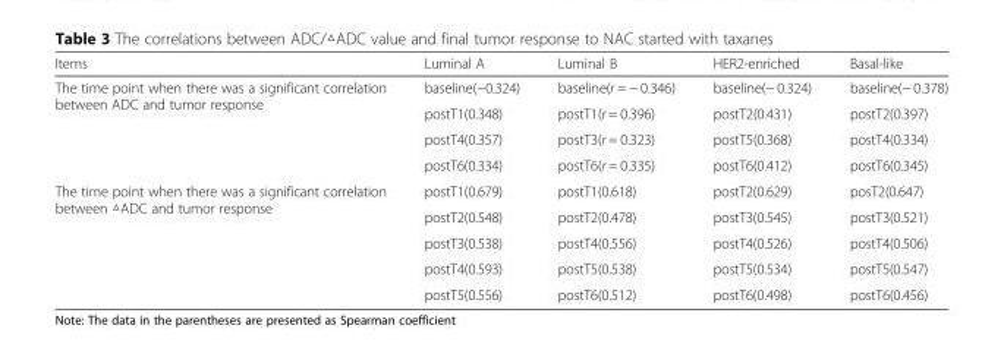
<table><thead><tr><td>Items</td><td>Luminal A</td><td>Luminal B</td><td>HER2-enriched</td><td>Basal-like</td></tr></thead><tbody><tr><td rowspan="4">The time point when there was a significant correlation between ADC and tumor response</td><td>baseline(−0.324)</td><td>baseline(r = − 0.346)</td><td>baseline(− 0.324)</td><td>baseline(− 0.378)</td></tr><tr><td>postT1(0.348)</td><td>postT1(r = 0.396)</td><td>postT2(0.431)</td><td>postT2(0.397)</td></tr><tr><td>postT4(0.357)</td><td>postT3(r = 0.323)</td><td>postT5(0.368)</td><td>postT4(0.334)</td></tr><tr><td>postT6(0.334)</td><td>postT6(r = 0.335)</td><td>postT6(0.412)</td><td>postT6(0.345)</td></tr><tr><td rowspan="5">The time point when there was a significant correlation between △ADC and tumor response</td><td>postT1(0.679)</td><td>postT1(0.618)</td><td>postT2(0.629)</td><td>posT2(0.647)</td></tr><tr><td>postT2(0.548)</td><td>postT2(0.478)</td><td>postT3(0.545)</td><td>postT3(0.521)</td></tr><tr><td>postT3(0.538)</td><td>postT4(0.556)</td><td>postT4(0.526)</td><td>postT4(0.506)</td></tr><tr><td>postT4(0.593)</td><td>postT5(0.538)</td><td>postT5(0.534)</td><td>postT5(0.547)</td></tr><tr><td>postT5(0.556)</td><td>postT6(0.512)</td><td>postT6(0.498)</td><td>postT6(0.456)</td></tr></tbody></table>